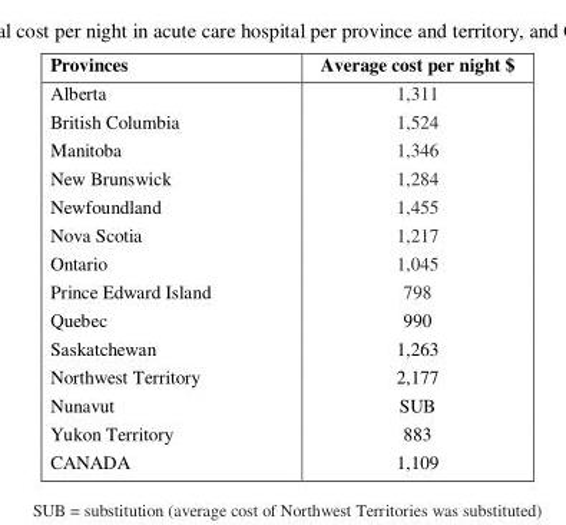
<table><thead><tr><td>Provinces</td><td>Average cost per night $</td></tr></thead><tbody><tr><td>Alberta</td><td>1,311</td></tr><tr><td>British Columbia</td><td>1,524</td></tr><tr><td>Manitoba</td><td>1,346</td></tr><tr><td>New Brunswick</td><td>1,284</td></tr><tr><td>Newfoundland</td><td>1,455</td></tr><tr><td>Nova Scotia</td><td>1,217</td></tr><tr><td>Ontario</td><td>1,045</td></tr><tr><td>Prince Edward Island</td><td>798</td></tr><tr><td>Quebec</td><td>990</td></tr><tr><td>Saskatchewan</td><td>1,263</td></tr><tr><td>Northwest Territory</td><td>2,177</td></tr><tr><td>Nunavut</td><td>SUB</td></tr><tr><td>Yukon Territory</td><td>883</td></tr><tr><td>CANADA</td><td>1,109</td></tr></tbody></table>